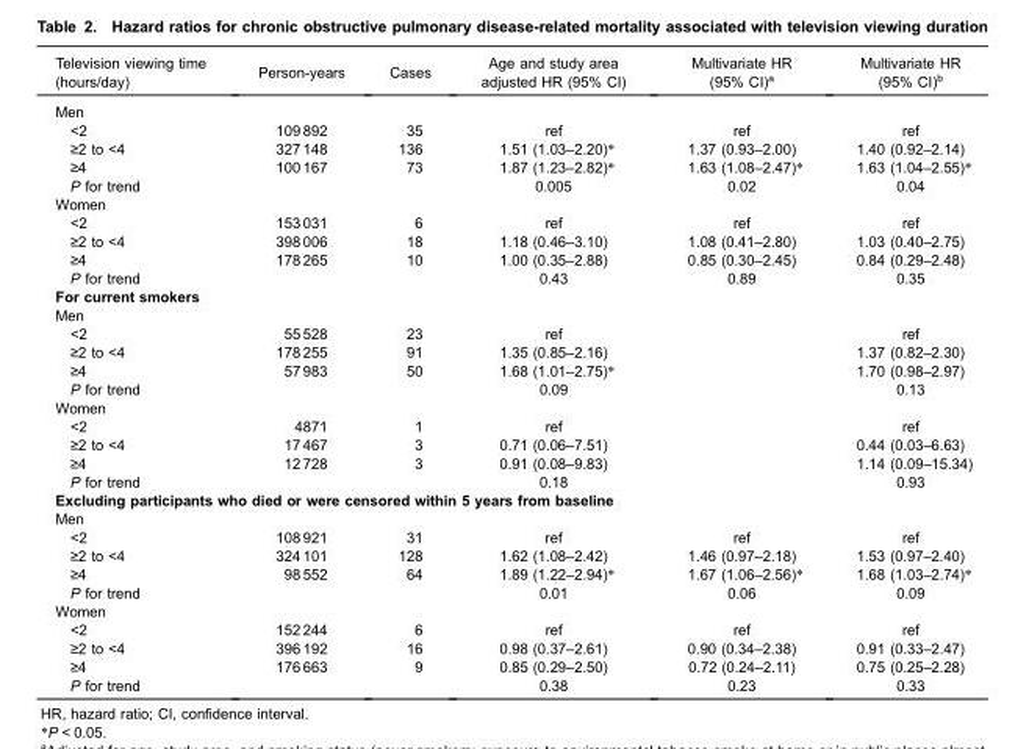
<table><thead><tr><td>Television viewing time (hours/day)</td><td>Person-years</td><td>Cases</td><td>Age and study area adjusted HR (95% CI)</td><td>Multivariate HR (95% CI)<sup>a</sup></td><td>Multivariate HR (95% CI)<sup>b</sup></td></tr></thead><tbody><tr><td colspan="6">Men</td></tr><tr><td>&lt;2</td><td>109 892</td><td>35</td><td>ref</td><td>ref</td><td>ref</td></tr><tr><td>≥2 to &lt;4</td><td>327 148</td><td>136</td><td>1.51 (1.03–2.20)*</td><td>1.37 (0.93–2.00)</td><td>1.40 (0.92–2.14)</td></tr><tr><td>≥4</td><td>100 167</td><td>73</td><td>1.87 (1.23–2.82)*</td><td>1.63 (1.08–2.47)*</td><td>1.63 (1.04–2.55)*</td></tr><tr><td>P for trend</td><td></td><td></td><td>0.005</td><td>0.02</td><td>0.04</td></tr><tr><td colspan="6">Women</td></tr><tr><td>&lt;2</td><td>153 031</td><td>6</td><td>ref</td><td>ref</td><td>ref</td></tr><tr><td>≥2 to &lt;4</td><td>398 006</td><td>18</td><td>1.18 (0.46–3.10)</td><td>1.08 (0.41–2.80)</td><td>1.03 (0.40–2.75)</td></tr><tr><td>≥4</td><td>178 265</td><td>10</td><td>1.00 (0.35–2.88)</td><td>0.85 (0.30–2.45)</td><td>0.84 (0.29–2.48)</td></tr><tr><td>P for trend</td><td></td><td></td><td>0.43</td><td>0.89</td><td>0.35</td></tr><tr><td colspan="6">For current smokers</td></tr><tr><td colspan="6">Men</td></tr><tr><td>&lt;2</td><td>55 528</td><td>23</td><td>ref</td><td></td><td>ref</td></tr><tr><td>≥2 to &lt;4</td><td>178 255</td><td>91</td><td>1.35 (0.85–2.16)</td><td></td><td>1.37 (0.82–2.30)</td></tr><tr><td>≥4</td><td>57 983</td><td>50</td><td>1.68 (1.01–2.75)*</td><td></td><td>1.70 (0.98–2.97)</td></tr><tr><td>P for trend</td><td></td><td></td><td>0.09</td><td></td><td>0.13</td></tr><tr><td colspan="6">Women</td></tr><tr><td>&lt;2</td><td>4871</td><td>1</td><td>ref</td><td></td><td>ref</td></tr><tr><td>≥2 to &lt;4</td><td>17 467</td><td>3</td><td>0.71 (0.06–7.51)</td><td></td><td>0.44 (0.03–6.63)</td></tr><tr><td>≥4</td><td>12 728</td><td>3</td><td>0.91 (0.08–9.83)</td><td></td><td>1.14 (0.09–15.34)</td></tr><tr><td>P for trend</td><td></td><td></td><td>0.18</td><td></td><td>0.93</td></tr><tr><td colspan="6">Excluding participants who died or were censored within 5 years from baseline</td></tr><tr><td colspan="6">Men</td></tr><tr><td>&lt;2</td><td>108 921</td><td>31</td><td>ref</td><td>ref</td><td>ref</td></tr><tr><td>≥2 to &lt;4</td><td>324 101</td><td>128</td><td>1.62 (1.08–2.42)</td><td>1.46 (0.97–2.18)</td><td>1.53 (0.97–2.40)</td></tr><tr><td>≥4</td><td>98 552</td><td>64</td><td>1.89 (1.22–2.94)*</td><td>1.67 (1.06–2.56)*</td><td>1.68 (1.03–2.74)*</td></tr><tr><td>P for trend</td><td></td><td></td><td>0.01</td><td>0.06</td><td>0.09</td></tr><tr><td colspan="6">Women</td></tr><tr><td>&lt;2</td><td>152 244</td><td>6</td><td>ref</td><td>ref</td><td>ref</td></tr><tr><td>≥2 to &lt;4</td><td>396 192</td><td>16</td><td>0.98 (0.37–2.61)</td><td>0.90 (0.34–2.38)</td><td>0.91 (0.33–2.47)</td></tr><tr><td>≥4</td><td>176 663</td><td>9</td><td>0.85 (0.29–2.50)</td><td>0.72 (0.24–2.11)</td><td>0.75 (0.25–2.28)</td></tr><tr><td>P for trend</td><td></td><td></td><td>0.38</td><td>0.23</td><td>0.33</td></tr></tbody></table>